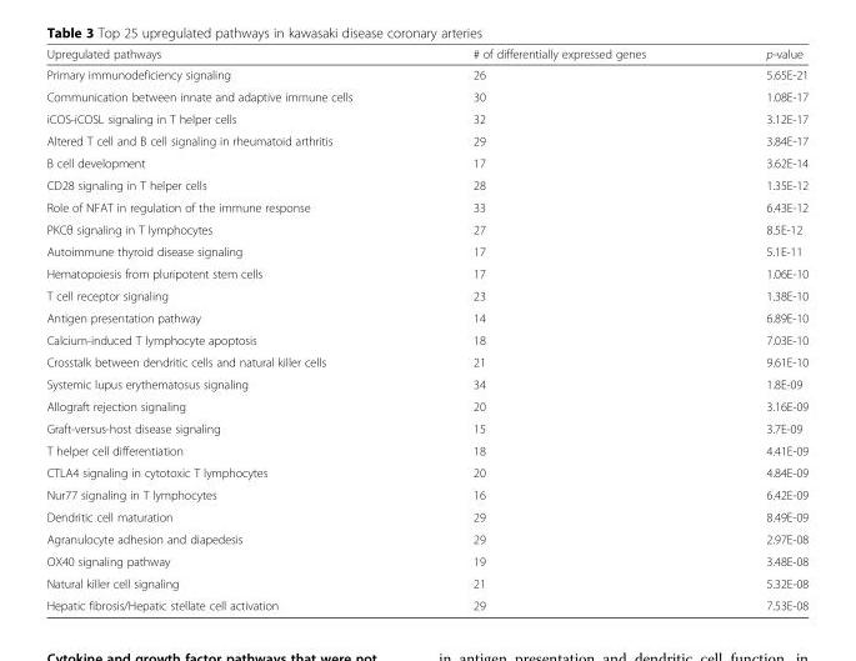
<table><thead><tr><td>Upregulated pathways</td><td># of differentially expressed genes</td><td>p-value</td></tr></thead><tbody><tr><td>Primary immunodeficiency signaling</td><td>26</td><td>5.65E-21</td></tr><tr><td>Communication between innate and adaptive immune cells</td><td>30</td><td>1.08E-17</td></tr><tr><td>iCOS-iCOSL signaling in T helper cells</td><td>32</td><td>3.12E-17</td></tr><tr><td>Altered T cell and B cell signaling in rheumatoid arthritis</td><td>29</td><td>3.84E-17</td></tr><tr><td>B cell development</td><td>17</td><td>3.62E-14</td></tr><tr><td>CD28 signaling in T helper cells</td><td>28</td><td>1.35E-12</td></tr><tr><td>Role of NFAT in regulation of the immune response</td><td>33</td><td>6.43E-12</td></tr><tr><td>PKCθ signaling in T lymphocytes</td><td>27</td><td>8.5E-12</td></tr><tr><td>Autoimmune thyroid disease signaling</td><td>17</td><td>5.1E-11</td></tr><tr><td>Hematopoiesis from pluripotent stem cells</td><td>17</td><td>1.06E-10</td></tr><tr><td>T cell receptor signaling</td><td>23</td><td>1.38E-10</td></tr><tr><td>Antigen presentation pathway</td><td>14</td><td>6.89E-10</td></tr><tr><td>Calcium-induced T lymphocyte apoptosis</td><td>18</td><td>7.03E-10</td></tr><tr><td>Crosstalk between dendritic cells and natural killer cells</td><td>21</td><td>9.61E-10</td></tr><tr><td>Systemic lupus erythematosus signaling</td><td>34</td><td>1.8E-09</td></tr><tr><td>Allograft rejection signaling</td><td>20</td><td>3.16E-09</td></tr><tr><td>Graft-versus-host disease signaling</td><td>15</td><td>3.7E-09</td></tr><tr><td>T helper cell differentiation</td><td>18</td><td>4.41E-09</td></tr><tr><td>CTLA4 signaling in cytotoxic T lymphocytes</td><td>20</td><td>4.84E-09</td></tr><tr><td>Nur77 signaling in T lymphocytes</td><td>16</td><td>6.42E-09</td></tr><tr><td>Dendritic cell maturation</td><td>29</td><td>8.49E-09</td></tr><tr><td>Agranulocyte adhesion and diapedesis</td><td>29</td><td>2.97E-08</td></tr><tr><td>OX40 signaling pathway</td><td>19</td><td>3.48E-08</td></tr><tr><td>Natural killer cell signaling</td><td>21</td><td>5.32E-08</td></tr><tr><td>Hepatic fibrosis/Hepatic stellate cell activation</td><td>29</td><td>7.53E-08</td></tr></tbody></table>